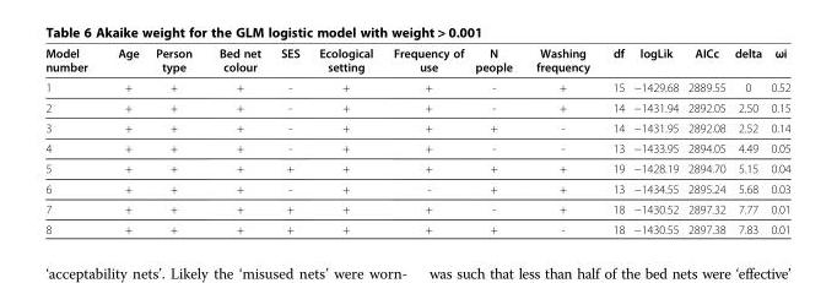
<table><thead><tr><td>Model number</td><td>Age</td><td>Person type</td><td>Bed net colour</td><td>SES</td><td>Ecological setting</td><td>Frequency of use</td><td>N people</td><td>Washing frequency</td><td>df</td><td>logLik</td><td>AICc</td><td>delta</td><td>ωi</td></tr></thead><tbody><tr><td>1</td><td>+</td><td>+</td><td>+</td><td>-</td><td>+</td><td>+</td><td>-</td><td>+</td><td>15</td><td>−1429.68</td><td>2889.55</td><td>0</td><td>0.52</td></tr><tr><td>2</td><td>+</td><td>+</td><td>+</td><td>-</td><td>+</td><td>+</td><td>-</td><td>+</td><td>14</td><td>−1431.94</td><td>2892.05</td><td>2.50</td><td>0.15</td></tr><tr><td>3</td><td>+</td><td>+</td><td>+</td><td>-</td><td>+</td><td>+</td><td>+</td><td>-</td><td>14</td><td>−1431.95</td><td>2892.08</td><td>2.52</td><td>0.14</td></tr><tr><td>4</td><td>+</td><td>+</td><td>+</td><td>-</td><td>+</td><td>+</td><td>-</td><td>-</td><td>13</td><td>−1433.95</td><td>2894.05</td><td>4.49</td><td>0.05</td></tr><tr><td>5</td><td>+</td><td>+</td><td>+</td><td>+</td><td>+</td><td>+</td><td>+</td><td>+</td><td>19</td><td>−1428.19</td><td>2894.70</td><td>5.15</td><td>0.04</td></tr><tr><td>6</td><td>+</td><td>+</td><td>+</td><td>-</td><td>+</td><td>-</td><td>+</td><td>+</td><td>13</td><td>−1434.55</td><td>2895.24</td><td>5.68</td><td>0.03</td></tr><tr><td>7</td><td>+</td><td>+</td><td>+</td><td>+</td><td>+</td><td>+</td><td>-</td><td>+</td><td>18</td><td>−1430.52</td><td>2897.32</td><td>7.77</td><td>0.01</td></tr><tr><td>8</td><td>+</td><td>+</td><td>+</td><td>+</td><td>+</td><td>+</td><td>+</td><td>-</td><td>18</td><td>−1430.55</td><td>2897.38</td><td>7.83</td><td>0.01</td></tr></tbody></table>